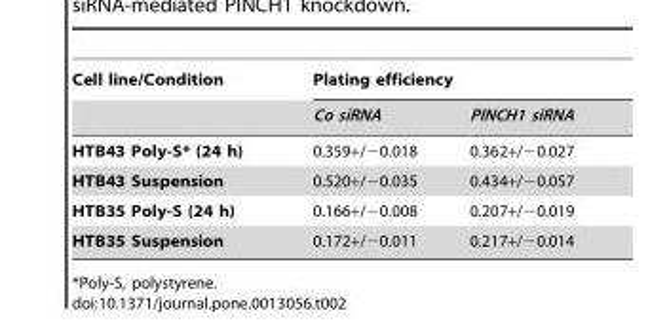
<table><thead><tr><td rowspan="2">Cell line/Condition</td><td colspan="2">Plating efficiency</td></tr><tr><td>Co siRNA</td><td>PINCH1 siRNA</td></tr></thead><tbody><tr><td>HTB43 Poly-S* (24 h)</td><td>0.359+/−0.018</td><td>0.362+/−0.027</td></tr><tr><td>HTB43 Suspension</td><td>0.520+/−0.035</td><td>0.434+/−0.057</td></tr><tr><td>HTB35 Poly-S (24 h)</td><td>0.166+/−0.008</td><td>0.207+/−0.019</td></tr><tr><td>HTB35 Suspension</td><td>0.172+/−0.011</td><td>0.217+/−0.014</td></tr></tbody></table>